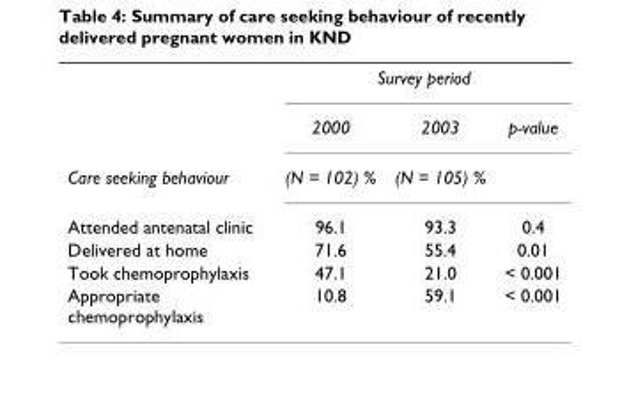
<table><thead><tr><td rowspan="2"></td><td colspan="3">Survey period</td></tr><tr><td>2000</td><td>2003</td><td>p-value</td></tr></thead><tbody><tr><td>Care seeking behaviour</td><td>(N = 102) %</td><td>(N = 105) %</td><td></td></tr><tr><td>Attended antenatal clinic</td><td>96.1</td><td>93.3</td><td>0.4</td></tr><tr><td>Delivered at home</td><td>71.6</td><td>55.4</td><td>0.01</td></tr><tr><td>Took chemoprophylaxis</td><td>47.1</td><td>21.0</td><td>&lt; 0.001</td></tr><tr><td>Appropriate chemoprophylaxis</td><td>10.8</td><td>59.1</td><td>&lt; 0.001</td></tr></tbody></table>